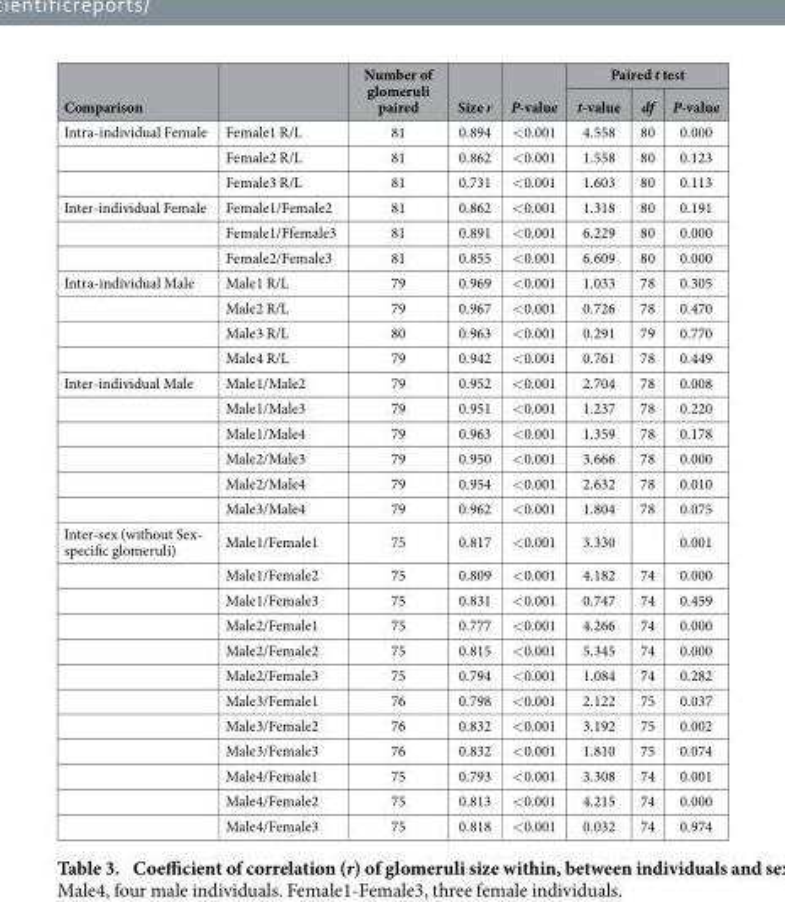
<table><thead><tr><td rowspan="2">Comparison</td><td rowspan="2"></td><td rowspan="2">Number of glomeruli paired</td><td rowspan="2">Size r</td><td rowspan="2">P-value</td><td colspan="3">Paired t test</td></tr><tr><td>t-value</td><td>df</td><td>P-value</td></tr></thead><tbody><tr><td rowspan="3">Intra-individual Female</td><td>Female1 R/L</td><td>81</td><td>0.894</td><td>&lt; 0.001</td><td>4.558</td><td>80</td><td>0.000</td></tr><tr><td>Female2 R/L</td><td>81</td><td>0.862</td><td>&lt; 0.001</td><td>1.558</td><td>80</td><td>0.123</td></tr><tr><td>Female3 R/L</td><td>81</td><td>0.731</td><td>&lt; 0.001</td><td>1.603</td><td>80</td><td>0.113</td></tr><tr><td rowspan="3">Inter-individual Female</td><td>Female1/Female2</td><td>81</td><td>0.862</td><td>&lt; 0.001</td><td>1.318</td><td>80</td><td>0.191</td></tr><tr><td>Female1/Ffemale3</td><td>81</td><td>0.891</td><td>&lt; 0.001</td><td>6.229</td><td>80</td><td>0.000</td></tr><tr><td>Female2/Female3</td><td>81</td><td>0.855</td><td>&lt; 0.001</td><td>6.609</td><td>80</td><td>0.000</td></tr><tr><td rowspan="4">Intra-individual Male</td><td>Male1 R/L</td><td>79</td><td>0.969</td><td>&lt; 0.001</td><td>1.033</td><td>78</td><td>0.305</td></tr><tr><td>Male2 R/L</td><td>79</td><td>0.967</td><td>&lt; 0.001</td><td>0.726</td><td>78</td><td>0.470</td></tr><tr><td>Male3 R/L</td><td>80</td><td>0.963</td><td>&lt; 0.001</td><td>0.291</td><td>79</td><td>0.770</td></tr><tr><td>Male4 R/L</td><td>79</td><td>0.942</td><td>&lt; 0.001</td><td>0.761</td><td>78</td><td>0.449</td></tr><tr><td rowspan="6">Inter-individual Male</td><td>Male1/Male2</td><td>79</td><td>0.952</td><td>&lt; 0.001</td><td>2.704</td><td>78</td><td>0.008</td></tr><tr><td>Male1/Male3</td><td>79</td><td>0.951</td><td>&lt; 0.001</td><td>1.237</td><td>78</td><td>0.220</td></tr><tr><td>Male1/Male4</td><td>79</td><td>0.963</td><td>&lt; 0.001</td><td>1.359</td><td>78</td><td>0.178</td></tr><tr><td>Male2/Male3</td><td>79</td><td>0.950</td><td>&lt; 0.001</td><td>3.666</td><td>78</td><td>0.000</td></tr><tr><td>Male2/Male4</td><td>79</td><td>0.954</td><td>&lt; 0.001</td><td>2.632</td><td>78</td><td>0.010</td></tr><tr><td>Male3/Male4</td><td>79</td><td>0.962</td><td>&lt; 0.001</td><td>1.804</td><td>78</td><td>0.075</td></tr><tr><td rowspan="12">Inter-sex (without Sex- specific glomeruli)</td><td>Male1/Female1</td><td>75</td><td>0.817</td><td>&lt; 0.001</td><td>3.330</td><td></td><td>0.001</td></tr><tr><td>Male1/Female2</td><td>75</td><td>0.809</td><td>&lt; 0.001</td><td>4.182</td><td>74</td><td>0.000</td></tr><tr><td>Male1/Female3</td><td>75</td><td>0.831</td><td>&lt; 0.001</td><td>0.747</td><td>74</td><td>0.459</td></tr><tr><td>Male2/Female1</td><td>75</td><td>0.777</td><td>&lt; 0.001</td><td>4.266</td><td>74</td><td>0.000</td></tr><tr><td>Male2/Female2</td><td>75</td><td>0.815</td><td>&lt; 0.001</td><td>5.345</td><td>74</td><td>0.000</td></tr><tr><td>Male2/Female3</td><td>75</td><td>0.794</td><td>&lt; 0.001</td><td>1.084</td><td>74</td><td>0.282</td></tr><tr><td>Male3/Female1</td><td>76</td><td>0.798</td><td>&lt; 0.001</td><td>2.122</td><td>75</td><td>0.037</td></tr><tr><td>Male3/Female2</td><td>76</td><td>0.832</td><td>&lt; 0.001</td><td>3.192</td><td>75</td><td>0.002</td></tr><tr><td>Male3/Female3</td><td>76</td><td>0.832</td><td>&lt; 0.001</td><td>1.810</td><td>75</td><td>0.074</td></tr><tr><td>Male4/Female1</td><td>75</td><td>0.793</td><td>&lt; 0.001</td><td>3.308</td><td>74</td><td>0.001</td></tr><tr><td>Male4/Female2</td><td>75</td><td>0.813</td><td>&lt; 0.001</td><td>4.215</td><td>74</td><td>0.000</td></tr><tr><td>Male4/Female3</td><td>75</td><td>0.818</td><td>&lt; 0.001</td><td>0.032</td><td>74</td><td>0.974</td></tr></tbody></table>